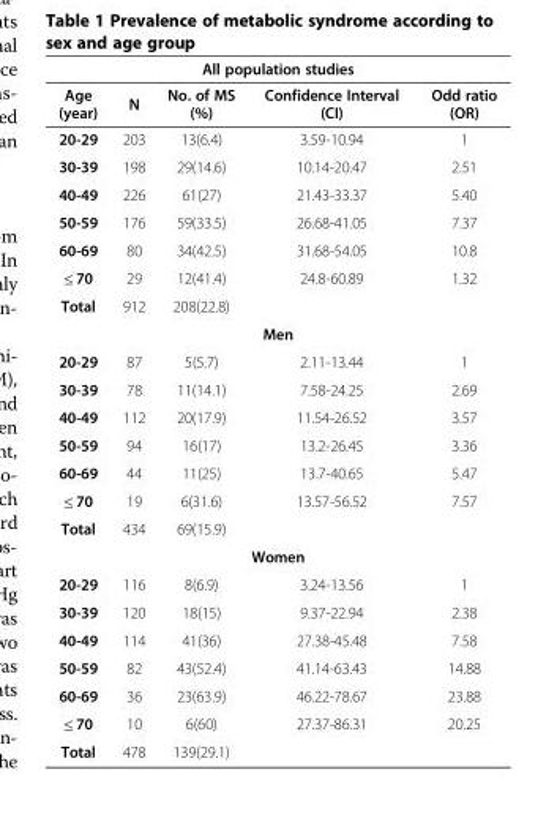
<table><thead><tr><td colspan="5">All population studies</td></tr><tr><td>Age (year)</td><td>N</td><td>No. of MS (%)</td><td>Confidence Interval (CI)</td><td>Odd ratio (OR)</td></tr></thead><tbody><tr><td>20-29</td><td>203</td><td>13(6.4)</td><td>3.59-10.94</td><td>1</td></tr><tr><td>30-39</td><td>198</td><td>29(14.6)</td><td>10.14-20.47</td><td>2.51</td></tr><tr><td>40-49</td><td>226</td><td>61(27)</td><td>21.43-33.37</td><td>5.40</td></tr><tr><td>50-59</td><td>176</td><td>59(33.5)</td><td>26.68-41.05</td><td>7.37</td></tr><tr><td>60-69</td><td>80</td><td>34(42.5)</td><td>31.68-54.05</td><td>10.8</td></tr><tr><td>≤ 70</td><td>29</td><td>12(41.4)</td><td>24.8-60.89</td><td>1.32</td></tr><tr><td rowspan="2">Total</td><td>912</td><td>208(22.8)</td><td></td><td></td></tr><tr><td colspan="4">Men</td></tr><tr><td>20-29</td><td>87</td><td>5(5.7)</td><td>2.11-13.44</td><td>1</td></tr><tr><td>30-39</td><td>78</td><td>11(14.1)</td><td>7.58-24.25</td><td>2.69</td></tr><tr><td>40-49</td><td>112</td><td>20(17.9)</td><td>11.54-26.52</td><td>3.57</td></tr><tr><td>50-59</td><td>94</td><td>16(17)</td><td>13.2-26.45</td><td>3.36</td></tr><tr><td>60-69</td><td>44</td><td>11(25)</td><td>13.7-40.65</td><td>5.47</td></tr><tr><td>≤ 70</td><td>19</td><td>6(31.6)</td><td>13.57-56.52</td><td>7.57</td></tr><tr><td rowspan="2">Total</td><td>434</td><td>69(15.9)</td><td></td><td></td></tr><tr><td colspan="4">Women</td></tr><tr><td>20-29</td><td>116</td><td>8(6.9)</td><td>3.24-13.56</td><td>1</td></tr><tr><td>30-39</td><td>120</td><td>18(15)</td><td>9.37-22.94</td><td>2.38</td></tr><tr><td>40-49</td><td>114</td><td>41(36)</td><td>27.38-45.48</td><td>7.58</td></tr><tr><td>50-59</td><td>82</td><td>43(52.4)</td><td>41.14-63.43</td><td>14.88</td></tr><tr><td>60-69</td><td>36</td><td>23(63.9)</td><td>46.22-78.67</td><td>23.88</td></tr><tr><td>≤ 70</td><td>10</td><td>6(60)</td><td>27.37-86.31</td><td>20.25</td></tr><tr><td>Total</td><td>478</td><td>139(29.1)</td><td></td><td></td></tr></tbody></table>